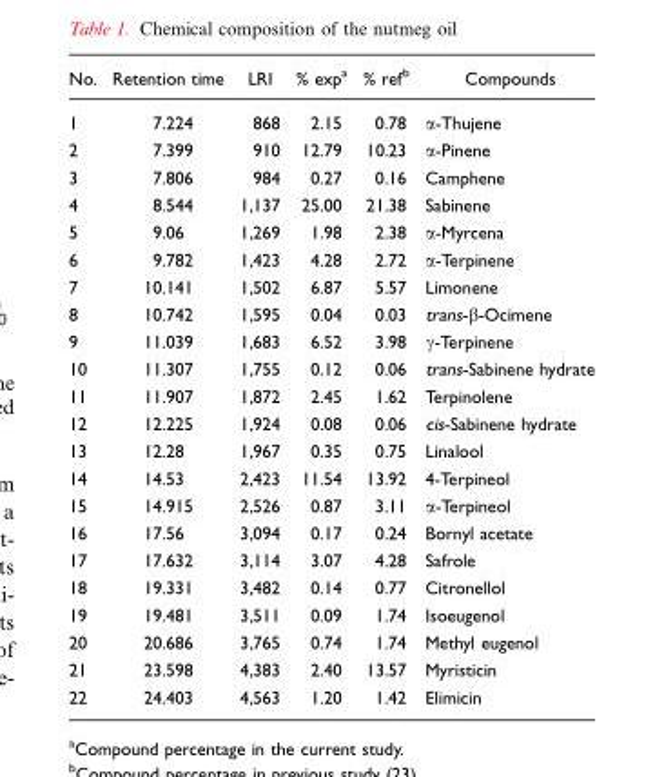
<table><thead><tr><td>No.</td><td>Retention time</td><td>LRI</td><td>% exp<sup>a</sup></td><td>% ref<sup>b</sup></td><td>Compounds</td></tr></thead><tbody><tr><td>1</td><td>7.224</td><td>868</td><td>2.15</td><td>0.78</td><td>α-Thujene</td></tr><tr><td>2</td><td>7.399</td><td>910</td><td>12.79</td><td>10.23</td><td>α-Pinene</td></tr><tr><td>3</td><td>7.806</td><td>984</td><td>0.27</td><td>0.16</td><td>Camphene</td></tr><tr><td>4</td><td>8.544</td><td>1,137</td><td>25.00</td><td>21.38</td><td>Sabinene</td></tr><tr><td>5</td><td>9.06</td><td>1,269</td><td>1.98</td><td>2.38</td><td>α-Myrcena</td></tr><tr><td>6</td><td>9.782</td><td>1,423</td><td>4.28</td><td>2.72</td><td>α-Terpinene</td></tr><tr><td>7</td><td>10.141</td><td>1,502</td><td>6.87</td><td>5.57</td><td>Limonene</td></tr><tr><td>8</td><td>10.742</td><td>1,595</td><td>0.04</td><td>0.03</td><td>trans-β-Ocimene</td></tr><tr><td>9</td><td>11.039</td><td>1,683</td><td>6.52</td><td>3.98</td><td>γ-Terpinene</td></tr><tr><td>10</td><td>11.307</td><td>1,755</td><td>0.12</td><td>0.06</td><td>trans-Sabinene hydrate</td></tr><tr><td>11</td><td>11.907</td><td>1,872</td><td>2.45</td><td>1.62</td><td>Terpinolene</td></tr><tr><td>12</td><td>12.225</td><td>1,924</td><td>0.08</td><td>0.06</td><td>cis-Sabinene hydrate</td></tr><tr><td>13</td><td>12.28</td><td>1,967</td><td>0.35</td><td>0.75</td><td>Linalool</td></tr><tr><td>14</td><td>14.53</td><td>2,423</td><td>11.54</td><td>13.92</td><td>4-Terpineol</td></tr><tr><td>15</td><td>14.915</td><td>2,526</td><td>0.87</td><td>3.11</td><td>α-Terpineol</td></tr><tr><td>16</td><td>17.56</td><td>3,094</td><td>0.17</td><td>0.24</td><td>Bornyl acetate</td></tr><tr><td>17</td><td>17.632</td><td>3,114</td><td>3.07</td><td>4.28</td><td>Safrole</td></tr><tr><td>18</td><td>19.331</td><td>3,482</td><td>0.14</td><td>0.77</td><td>Citronellol</td></tr><tr><td>19</td><td>19.481</td><td>3,511</td><td>0.09</td><td>1.74</td><td>Isoeugenol</td></tr><tr><td>20</td><td>20.686</td><td>3,765</td><td>0.74</td><td>1.74</td><td>Methyl eugenol</td></tr><tr><td>21</td><td>23.598</td><td>4,383</td><td>2.40</td><td>13.57</td><td>Myristicin</td></tr><tr><td>22</td><td>24.403</td><td>4,563</td><td>1.20</td><td>1.42</td><td>Elimicin</td></tr></tbody></table>